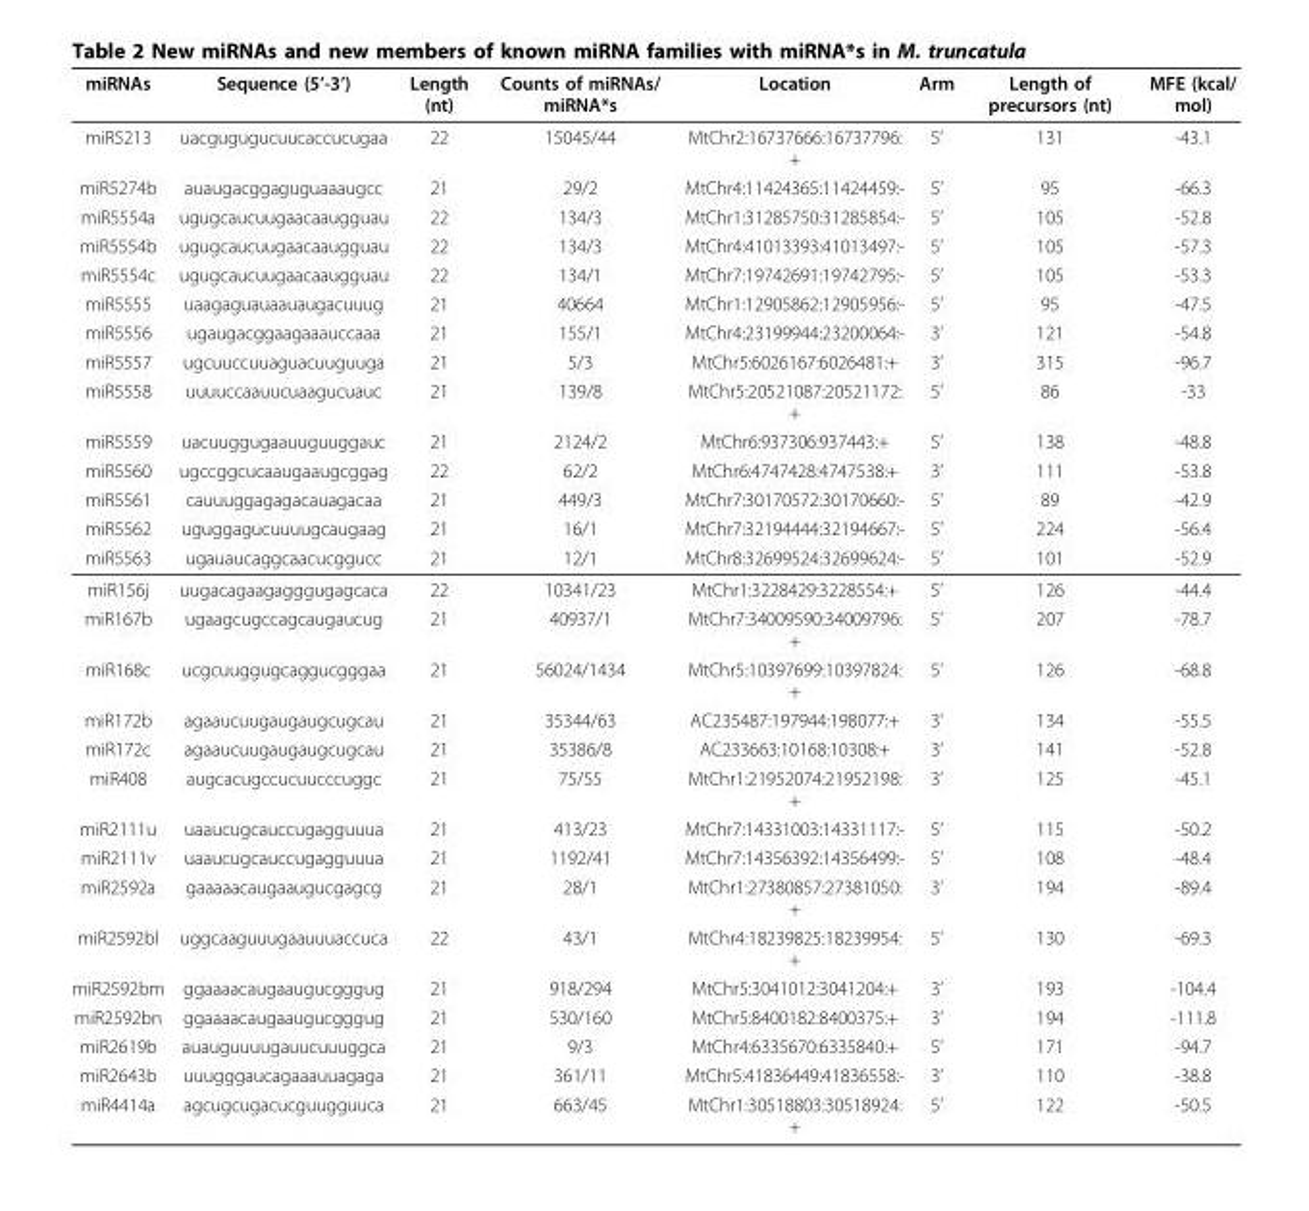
<table><thead><tr><td>miRNAs</td><td>Sequence (5’-3’)</td><td>Length (nt)</td><td>Counts of miRNAs/ miRNA*s</td><td>Location</td><td>Arm</td><td>Length of precursors (nt)</td><td>MFE (kcal/ mol)</td></tr></thead><tbody><tr><td>miR5213</td><td>uacgugugucuucaccucugaa</td><td>22</td><td>15045/44</td><td>MtChr2:16737666:16737796: +</td><td>5’</td><td>131</td><td>-43.1</td></tr><tr><td>miR5274b</td><td>auaugacggaguguaaaugcc</td><td>21</td><td>29/2</td><td>MtChr4:11424365:11424459:-</td><td>5’</td><td>95</td><td>-66.3</td></tr><tr><td>miR5554a</td><td>ugugcaucuugaacaaugguau</td><td>22</td><td>134/3</td><td>MtChr1:31285750:31285854:-</td><td>5’</td><td>105</td><td>-52.8</td></tr><tr><td>miR5554b</td><td>ugugcaucuugaacaaugguau</td><td>22</td><td>134/3</td><td>MtChr4:41013393:41013497:-</td><td>5’</td><td>105</td><td>-57.3</td></tr><tr><td>miR5554c</td><td>ugugcaucuugaacaaugguau</td><td>22</td><td>134/1</td><td>MtChr7:19742691:19742795:-</td><td>5’</td><td>105</td><td>-53.3</td></tr><tr><td>miR5555</td><td>uaagaguauaauaugacuuug</td><td>21</td><td>40664</td><td>MtChr1:12905862:12905956:-</td><td>5’</td><td>95</td><td>-47.5</td></tr><tr><td>miR5556</td><td>ugaugacggaagaaauccaaa</td><td>21</td><td>155/1</td><td>MtChr4:23199944:23200064:-</td><td>3’</td><td>121</td><td>-54.8</td></tr><tr><td>miR5557</td><td>ugcuuccuuaguacuuguuga</td><td>21</td><td>5/3</td><td>MtChr5:6026167:6026481:+</td><td>3’</td><td>315</td><td>-96.7</td></tr><tr><td>miR5558</td><td>uuuuccaauucuaagucuauc</td><td>21</td><td>139/8</td><td>MtChr5:20521087:20521172: +</td><td>5’</td><td>86</td><td>-33</td></tr><tr><td>miR5559</td><td>uacuuggugaauuguuggauc</td><td>21</td><td>2124/2</td><td>MtChr6:937306:937443:+</td><td>5’</td><td>138</td><td>-48.8</td></tr><tr><td>miR5560</td><td>ugccggcucaaugaaugcggag</td><td>22</td><td>62/2</td><td>MtChr6:4747428:4747538:+</td><td>3’</td><td>111</td><td>-53.8</td></tr><tr><td>miR5561</td><td>cauuuggagagacauagacaa</td><td>21</td><td>449/3</td><td>MtChr7:30170572:30170660:-</td><td>5’</td><td>89</td><td>-42.9</td></tr><tr><td>miR5562</td><td>uguggagucuuuugcaugaag</td><td>21</td><td>16/1</td><td>MtChr7:32194444:32194667:-</td><td>5’</td><td>224</td><td>-56.4</td></tr><tr><td>miR5563</td><td>ugauaucaggcaacucggucc</td><td>21</td><td>12/1</td><td>MtChr8:32699524:32699624:-</td><td>5’</td><td>101</td><td>-52.9</td></tr><tr><td>miR156j</td><td>uugacagaagagggugagcaca</td><td>22</td><td>10341/23</td><td>MtChr1:3228429:3228554:+</td><td>5’</td><td>126</td><td>-44.4</td></tr><tr><td>miR167b</td><td>ugaagcugccagcaugaucug</td><td>21</td><td>40937/1</td><td>MtChr7:34009590:34009796: +</td><td>5’</td><td>207</td><td>-78.7</td></tr><tr><td>miR168c</td><td>ucgcuuggugcaggucgggaa</td><td>21</td><td>56024/1434</td><td>MtChr5:10397699:10397824: +</td><td>5’</td><td>126</td><td>-68.8</td></tr><tr><td>miR172b</td><td>agaaucuugaugaugcugcau</td><td>21</td><td>35344/63</td><td>AC235487:197944:198077:+</td><td>3’</td><td>134</td><td>-55.5</td></tr><tr><td>miR172c</td><td>agaaucuugaugaugcugcau</td><td>21</td><td>35386/8</td><td>AC233663:10168:10308:+</td><td>3’</td><td>141</td><td>-52.8</td></tr><tr><td>miR408</td><td>augcacugccucuucccuggc</td><td>21</td><td>75/55</td><td>MtChr1:21952074:21952198: +</td><td>3’</td><td>125</td><td>-45.1</td></tr><tr><td>miR2111u</td><td>uaaucugcauccugagguuua</td><td>21</td><td>413/23</td><td>MtChr7:14331003:14331117:-</td><td>5’</td><td>115</td><td>-50.2</td></tr><tr><td>miR2111v</td><td>uaaucugcauccugagguuua</td><td>21</td><td>1192/41</td><td>MtChr7:14356392:14356499:-</td><td>5’</td><td>108</td><td>-48.4</td></tr><tr><td>miR2592a</td><td>gaaaaacaugaaugucgagcg</td><td>21</td><td>28/1</td><td>MtChr1:27380857:27381050: +</td><td>3’</td><td>194</td><td>-89.4</td></tr><tr><td>miR2592bl</td><td>uggcaaguuugaauuuaccuca</td><td>22</td><td>43/1</td><td>MtChr4:18239825:18239954: +</td><td>5’</td><td>130</td><td>-69.3</td></tr><tr><td>miR2592bm</td><td>ggaaaacaugaaugucgggug</td><td>21</td><td>918/294</td><td>MtChr5:3041012:3041204:+</td><td>3’</td><td>193</td><td>-104.4</td></tr><tr><td>miR2592bn</td><td>ggaaaacaugaaugucgggug</td><td>21</td><td>530/160</td><td>MtChr5:8400182:8400375:+</td><td>3’</td><td>194</td><td>-111.8</td></tr><tr><td>miR2619b</td><td>auauguuuugauucuuuggca</td><td>21</td><td>9/3</td><td>MtChr4:6335670:6335840:+</td><td>5’</td><td>171</td><td>-94.7</td></tr><tr><td>miR2643b</td><td>uuugggaucagaaauuagaga</td><td>21</td><td>361/11</td><td>MtChr5:41836449:41836558:-</td><td>3’</td><td>110</td><td>-38.8</td></tr><tr><td>miR4414a</td><td>agcugcugacucguugguuca</td><td>21</td><td>663/45</td><td>MtChr1:30518803:30518924: +</td><td>5’</td><td>122</td><td>-50.5</td></tr></tbody></table>